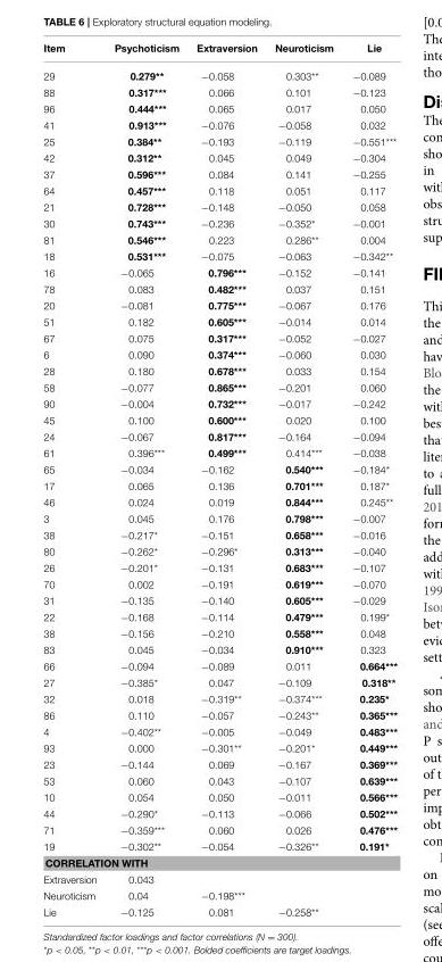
<table><thead><tr><td>Item</td><td>Psychoticism</td><td>Extraversion</td><td>Neuroticism</td><td>Lie</td></tr></thead><tbody><tr><td>29</td><td>0.279**</td><td>−0.058</td><td>0.303**</td><td>−0.089</td></tr><tr><td>88</td><td>0.317***</td><td>0.066</td><td>0.101</td><td>−0.123</td></tr><tr><td>96</td><td>0.444***</td><td>0.065</td><td>0.017</td><td>0.050</td></tr><tr><td>41</td><td>0.913***</td><td>−0.076</td><td>−0.058</td><td>0.032</td></tr><tr><td>25</td><td>0.384**</td><td>−0.193</td><td>−0.119</td><td>−0.551***</td></tr><tr><td>42</td><td>0.312**</td><td>0.045</td><td>0.049</td><td>−0.304</td></tr><tr><td>37</td><td>0.596***</td><td>0.084</td><td>0.141</td><td>−0.255</td></tr><tr><td>64</td><td>0.457***</td><td>0.118</td><td>0.051</td><td>0.117</td></tr><tr><td>21</td><td>0.728***</td><td>−0.148</td><td>−0.050</td><td>0.058</td></tr><tr><td>30</td><td>0.743***</td><td>−0.236</td><td>−0.352*</td><td>−0.001</td></tr><tr><td>81</td><td>0.546***</td><td>0.223</td><td>0.286**</td><td>0.004</td></tr><tr><td>18</td><td>0.531***</td><td>−0.075</td><td>−0.063</td><td>−0.342**</td></tr><tr><td>16</td><td>−0.065</td><td>0.796***</td><td>−0.152</td><td>−0.141</td></tr><tr><td>78</td><td>0.083</td><td>0.482***</td><td>0.037</td><td>0.151</td></tr><tr><td>20</td><td>−0.081</td><td>0.775***</td><td>−0.067</td><td>0.176</td></tr><tr><td>51</td><td>0.182</td><td>0.605***</td><td>−0.014</td><td>0.014</td></tr><tr><td>67</td><td>0.075</td><td>0.317***</td><td>−0.052</td><td>−0.027</td></tr><tr><td>6</td><td>0.090</td><td>0.374***</td><td>−0.060</td><td>0.030</td></tr><tr><td>28</td><td>0.180</td><td>0.678***</td><td>0.033</td><td>0.154</td></tr><tr><td>58</td><td>−0.077</td><td>0.865***</td><td>−0.201</td><td>0.060</td></tr><tr><td>90</td><td>−0.004</td><td>0.732***</td><td>−0.017</td><td>−0.242</td></tr><tr><td>45</td><td>0.100</td><td>0.600***</td><td>0.020</td><td>0.100</td></tr><tr><td>24</td><td>−0.067</td><td>0.817***</td><td>−0.164</td><td>−0.094</td></tr><tr><td>61</td><td>0.396***</td><td>0.499***</td><td>0.414***</td><td>−0.038</td></tr><tr><td>65</td><td>−0.034</td><td>−0.162</td><td>0.540***</td><td>−0.184*</td></tr><tr><td>17</td><td>0.065</td><td>0.136</td><td>0.701***</td><td>0.187*</td></tr><tr><td>46</td><td>0.024</td><td>0.019</td><td>0.844***</td><td>0.245**</td></tr><tr><td>3</td><td>0.045</td><td>0.176</td><td>0.798***</td><td>−0.007</td></tr><tr><td>38</td><td>−0.217*</td><td>−0.151</td><td>0.658***</td><td>−0.016</td></tr><tr><td>80</td><td>−0.262*</td><td>−0.296*</td><td>0.313***</td><td>−0.040</td></tr><tr><td>26</td><td>−0.201*</td><td>−0.131</td><td>0.683***</td><td>−0.107</td></tr><tr><td>70</td><td>0.002</td><td>−0.191</td><td>0.619***</td><td>−0.070</td></tr><tr><td>31</td><td>−0.135</td><td>−0.140</td><td>0.605***</td><td>−0.029</td></tr><tr><td>22</td><td>−0.168</td><td>−0.114</td><td>0.479***</td><td>0.199*</td></tr><tr><td>38</td><td>−0.156</td><td>−0.210</td><td>0.558***</td><td>0.048</td></tr><tr><td>83</td><td>0.045</td><td>−0.034</td><td>0.910***</td><td>0.323</td></tr><tr><td>66</td><td>−0.094</td><td>−0.089</td><td>0.011</td><td>0.664***</td></tr><tr><td>27</td><td>−0.385*</td><td>0.047</td><td>−0.109</td><td>0.318**</td></tr><tr><td>32</td><td>0.018</td><td>−0.319**</td><td>−0.374***</td><td>0.235*</td></tr><tr><td>86</td><td>0.110</td><td>−0.057</td><td>−0.243**</td><td>0.365***</td></tr><tr><td>4</td><td>−0.402**</td><td>−0.005</td><td>−0.049</td><td>0.483***</td></tr><tr><td>93</td><td>0.000</td><td>−0.301**</td><td>−0.201*</td><td>0.449***</td></tr><tr><td>23</td><td>−0.144</td><td>0.069</td><td>−0.167</td><td>0.369***</td></tr><tr><td>53</td><td>0.060</td><td>0.043</td><td>−0.107</td><td>0.639***</td></tr><tr><td>10</td><td>0.054</td><td>0.050</td><td>−0.011</td><td>0.566***</td></tr><tr><td>44</td><td>−0.290*</td><td>−0.113</td><td>−0.066</td><td>0.502***</td></tr><tr><td>71</td><td>−0.359***</td><td>0.060</td><td>0.026</td><td>0.476***</td></tr><tr><td>19</td><td>−0.302**</td><td>−0.054</td><td>−0.326**</td><td>0.191*</td></tr><tr><td colspan="5">CORRELATION WITH</td></tr><tr><td>Extraversion</td><td>0.043</td><td></td><td></td><td></td></tr><tr><td>Neuroticism</td><td>0.04</td><td>−0.198***</td><td></td><td></td></tr><tr><td>Lie</td><td>−0.125</td><td>0.081</td><td>−0.258**</td><td></td></tr></tbody></table>